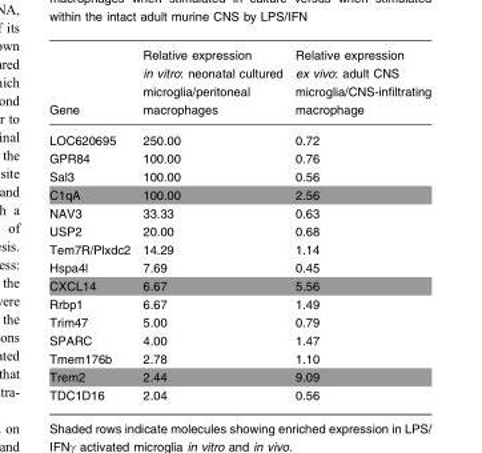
<table><thead><tr><td>Gene</td><td>Relative expression in vitro: neonatal cultured microglia/peritoneal macrophages</td><td>Relative expression ex vivo: adult CNS microglia/CNS-infiltrating macrophage</td></tr></thead><tbody><tr><td>LOC620695</td><td>250.00</td><td>0.72</td></tr><tr><td>GPR84</td><td>100.00</td><td>0.76</td></tr><tr><td>Sal3</td><td>100.00</td><td>0.56</td></tr><tr><td>C1qA</td><td>100.00</td><td>2.56</td></tr><tr><td>NAV3</td><td>33.33</td><td>0.63</td></tr><tr><td>USP2</td><td>20.00</td><td>0.68</td></tr><tr><td>Tem7R/Plxdc2</td><td>14.29</td><td>1.14</td></tr><tr><td>Hspa4l</td><td>7.69</td><td>0.45</td></tr><tr><td>CXCL14</td><td>6.67</td><td>5.56</td></tr><tr><td>Rrbp1</td><td>6.67</td><td>1.49</td></tr><tr><td>Trim47</td><td>5.00</td><td>0.79</td></tr><tr><td>SPARC</td><td>4.00</td><td>1.47</td></tr><tr><td>Tmem176b</td><td>2.78</td><td>1.10</td></tr><tr><td>Trem2</td><td>2.44</td><td>9.09</td></tr><tr><td>TDC1D16</td><td>2.04</td><td>0.56</td></tr></tbody></table>